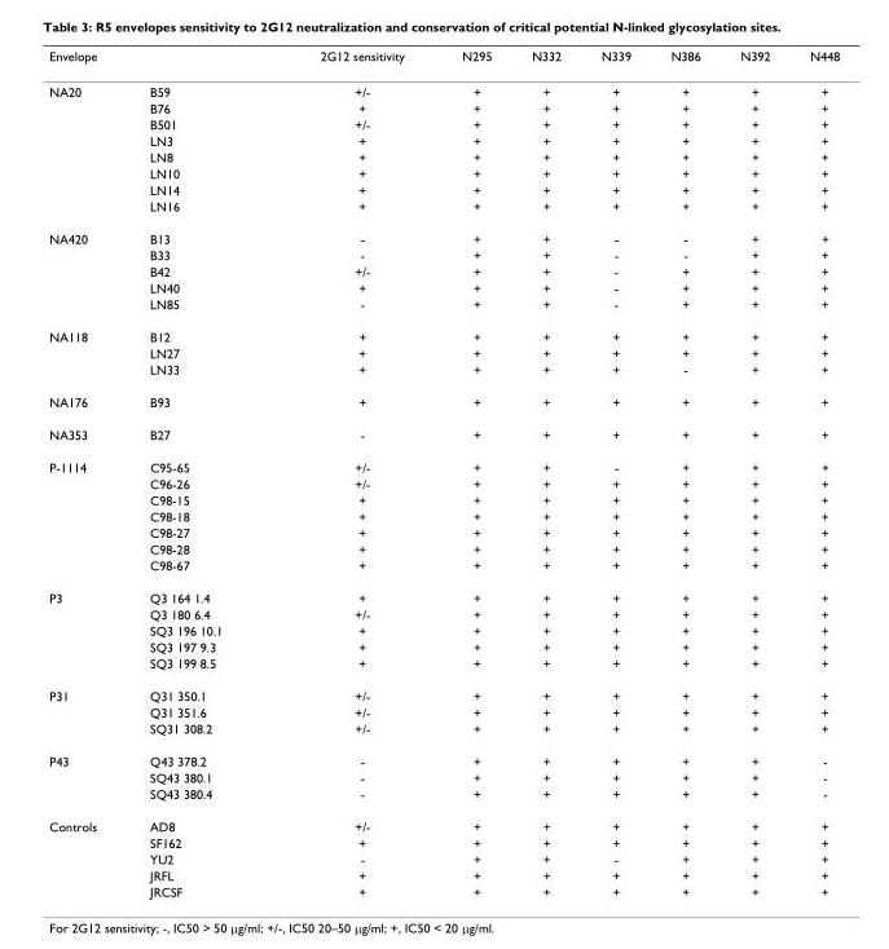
<table><thead><tr><td>Envelope</td><td></td><td>2G12 sensitivity</td><td>N295</td><td>N332</td><td>N339</td><td>N386</td><td>N392</td><td>N448</td></tr></thead><tbody><tr><td rowspan="8">NA20</td><td>B59</td><td>+/-</td><td>+</td><td>+</td><td>+</td><td>+</td><td>+</td><td>+</td></tr><tr><td>B76</td><td>+</td><td>+</td><td>+</td><td>+</td><td>+</td><td>+</td><td>+</td></tr><tr><td>B501</td><td>+/-</td><td>+</td><td>+</td><td>+</td><td>+</td><td>+</td><td>+</td></tr><tr><td>LN3</td><td>+</td><td>+</td><td>+</td><td>+</td><td>+</td><td>+</td><td>+</td></tr><tr><td>LN8</td><td>+</td><td>+</td><td>+</td><td>+</td><td>+</td><td>+</td><td>+</td></tr><tr><td>LN10</td><td>+</td><td>+</td><td>+</td><td>+</td><td>+</td><td>+</td><td>+</td></tr><tr><td>LN14</td><td>+</td><td>+</td><td>+</td><td>+</td><td>+</td><td>+</td><td>+</td></tr><tr><td>LN16</td><td>+</td><td>+</td><td>+</td><td>+</td><td>+</td><td>+</td><td>+</td></tr><tr><td rowspan="5">NA420</td><td>B13</td><td>-</td><td>+</td><td>+</td><td>-</td><td>-</td><td>+</td><td>+</td></tr><tr><td>B33</td><td>-</td><td>+</td><td>+</td><td>-</td><td>-</td><td>+</td><td>+</td></tr><tr><td>B42</td><td>+/-</td><td>+</td><td>+</td><td>-</td><td>+</td><td>+</td><td>+</td></tr><tr><td>LN40</td><td>+</td><td>+</td><td>+</td><td>-</td><td>+</td><td>+</td><td>+</td></tr><tr><td>LN85</td><td>-</td><td>+</td><td>+</td><td>-</td><td>+</td><td>+</td><td>+</td></tr><tr><td rowspan="3">NA118</td><td>B12</td><td>+</td><td>+</td><td>+</td><td>+</td><td>+</td><td>+</td><td>+</td></tr><tr><td>LN27</td><td>+</td><td>+</td><td>+</td><td>+</td><td>+</td><td>+</td><td>+</td></tr><tr><td>LN33</td><td>+</td><td>+</td><td>+</td><td>+</td><td>-</td><td>+</td><td>+</td></tr><tr><td>NA176</td><td>B93</td><td>+</td><td>+</td><td>+</td><td>+</td><td>+</td><td>+</td><td>+</td></tr><tr><td>NA353</td><td>B27</td><td>-</td><td>+</td><td>+</td><td>+</td><td>+</td><td>+</td><td>+</td></tr><tr><td rowspan="7">P-1114</td><td>C95-65</td><td>+/-</td><td>+</td><td>+</td><td>-</td><td>+</td><td>+</td><td>+</td></tr><tr><td>C96-26</td><td>+/-</td><td>+</td><td>+</td><td>+</td><td>+</td><td>+</td><td>+</td></tr><tr><td>C98-15</td><td>+</td><td>+</td><td>+</td><td>+</td><td>+</td><td>+</td><td>+</td></tr><tr><td>C98-18</td><td>+</td><td>+</td><td>+</td><td>+</td><td>+</td><td>+</td><td>+</td></tr><tr><td>C98-27</td><td>+</td><td>+</td><td>+</td><td>+</td><td>+</td><td>+</td><td>+</td></tr><tr><td>C98-28</td><td>+</td><td>+</td><td>+</td><td>+</td><td>+</td><td>+</td><td>+</td></tr><tr><td>C98-67</td><td>+</td><td>+</td><td>+</td><td>+</td><td>+</td><td>+</td><td>+</td></tr><tr><td rowspan="5">P3</td><td>Q3 164 1.4</td><td>+</td><td>+</td><td>+</td><td>+</td><td>+</td><td>+</td><td>+</td></tr><tr><td>Q3 180 6.4</td><td>+/-</td><td>+</td><td>+</td><td>+</td><td>+</td><td>+</td><td>+</td></tr><tr><td>SQ3 196 10.1</td><td>+</td><td>+</td><td>+</td><td>+</td><td>+</td><td>+</td><td>+</td></tr><tr><td>SQ3 197 9.3</td><td>+</td><td>+</td><td>+</td><td>+</td><td>+</td><td>+</td><td>+</td></tr><tr><td>SQ3 199 8.5</td><td>+</td><td>+</td><td>+</td><td>+</td><td>+</td><td>+</td><td>+</td></tr><tr><td rowspan="3">P31</td><td>Q31 350.1</td><td>+/-</td><td>+</td><td>+</td><td>+</td><td>+</td><td>+</td><td>+</td></tr><tr><td>Q31 351.6</td><td>+/-</td><td>+</td><td>+</td><td>+</td><td>+</td><td>+</td><td>+</td></tr><tr><td>SQ31 308.2</td><td>+/-</td><td>+</td><td>+</td><td>+</td><td>+</td><td>+</td><td>+</td></tr><tr><td rowspan="3">P43</td><td>Q43 378.2</td><td>-</td><td>+</td><td>+</td><td>+</td><td>+</td><td>+</td><td>-</td></tr><tr><td>SQ43 380.1</td><td>-</td><td>+</td><td>+</td><td>+</td><td>+</td><td>+</td><td>-</td></tr><tr><td>SQ43 380.4</td><td>-</td><td>+</td><td>+</td><td>+</td><td>+</td><td>+</td><td>-</td></tr><tr><td rowspan="5">Controls</td><td>AD8</td><td>+/-</td><td>+</td><td>+</td><td>+</td><td>+</td><td>+</td><td>+</td></tr><tr><td>SF162</td><td>+</td><td>+</td><td>+</td><td>+</td><td>+</td><td>+</td><td>+</td></tr><tr><td>YU2</td><td>-</td><td>+</td><td>+</td><td>-</td><td>+</td><td>+</td><td>+</td></tr><tr><td>JRFL</td><td>+</td><td>+</td><td>+</td><td>+</td><td>+</td><td>+</td><td>+</td></tr><tr><td>JRCSF</td><td>+</td><td>+</td><td>+</td><td>+</td><td>+</td><td>+</td><td>+</td></tr></tbody></table>